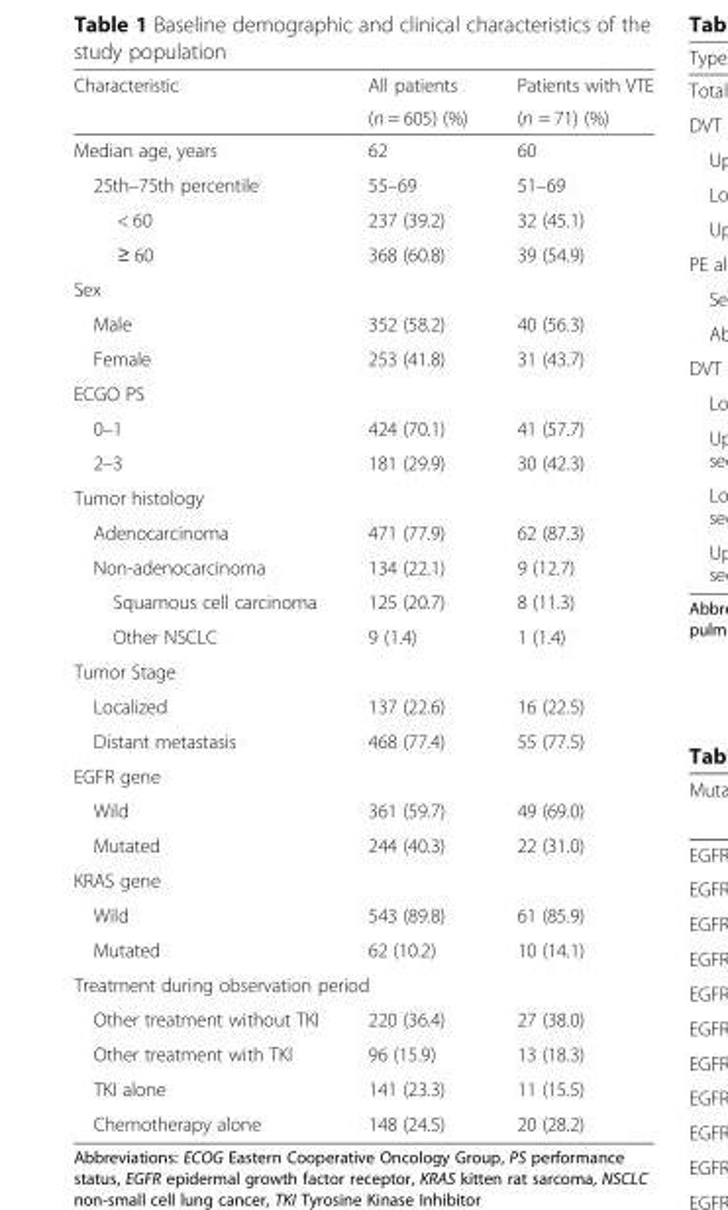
<table><thead><tr><td rowspan="2">Characteristic</td><td rowspan="2">All patients (n = 605) (%)</td><td rowspan="2">Patients with VTE (n = 71) (%)</td></tr><tr></tr></thead><tbody><tr><td>Median age, years</td><td>62</td><td>60</td></tr><tr><td>25th–75th percentile</td><td>55–69</td><td>51–69</td></tr><tr><td>&lt; 60</td><td>237 (39.2)</td><td>32 (45.1)</td></tr><tr><td>≥ 60</td><td>368 (60.8)</td><td>39 (54.9)</td></tr><tr><td colspan="3">Sex</td></tr><tr><td>Male</td><td>352 (58.2)</td><td>40 (56.3)</td></tr><tr><td>Female</td><td>253 (41.8)</td><td>31 (43.7)</td></tr><tr><td colspan="3">ECGO PS</td></tr><tr><td>0–1</td><td>424 (70.1)</td><td>41 (57.7)</td></tr><tr><td>2–3</td><td>181 (29.9)</td><td>30 (42.3)</td></tr><tr><td colspan="3">Tumor histology</td></tr><tr><td>Adenocarcinoma</td><td>471 (77.9)</td><td>62 (87.3)</td></tr><tr><td>Non-adenocarcinoma</td><td>134 (22.1)</td><td>9 (12.7)</td></tr><tr><td>Squamous cell carcinoma</td><td>125 (20.7)</td><td>8 (11.3)</td></tr><tr><td>Other NSCLC</td><td>9 (1.4)</td><td>1 (1.4)</td></tr><tr><td colspan="3">Tumor Stage</td></tr><tr><td>Localized</td><td>137 (22.6)</td><td>16 (22.5)</td></tr><tr><td>Distant metastasis</td><td>468 (77.4)</td><td>55 (77.5)</td></tr><tr><td colspan="3">EGFR gene</td></tr><tr><td>Wild</td><td>361 (59.7)</td><td>49 (69.0)</td></tr><tr><td>Mutated</td><td>244 (40.3)</td><td>22 (31.0)</td></tr><tr><td colspan="3">KRAS gene</td></tr><tr><td>Wild</td><td>543 (89.8)</td><td>61 (85.9)</td></tr><tr><td>Mutated</td><td>62 (10.2)</td><td>10 (14.1)</td></tr><tr><td colspan="3">Treatment during observation period</td></tr><tr><td>Other treatment without TKI</td><td>220 (36.4)</td><td>27 (38.0)</td></tr><tr><td>Other treatment with TKI</td><td>96 (15.9)</td><td>13 (18.3)</td></tr><tr><td>TKI alone</td><td>141 (23.3)</td><td>11 (15.5)</td></tr><tr><td>Chemotherapy alone</td><td>148 (24.5)</td><td>20 (28.2)</td></tr></tbody></table>